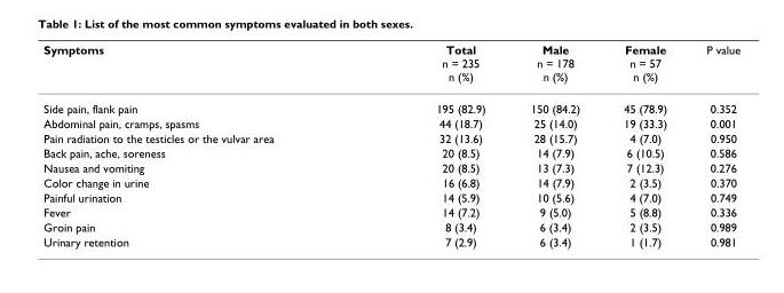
<table><thead><tr><td>Symptoms</td><td>Total n = 235 n (%)</td><td>Male n = 178 n (%)</td><td>Female n = 57 n (%)</td><td>P value</td></tr></thead><tbody><tr><td>Side pain, flank pain</td><td>195 (82.9)</td><td>150 (84.2)</td><td>45 (78.9)</td><td>0.352</td></tr><tr><td>Abdominal pain, cramps, spasms</td><td>44 (18.7)</td><td>25 (14.0)</td><td>19 (33.3)</td><td>0.001</td></tr><tr><td>Pain radiation to the testicles or the vulvar area</td><td>32 (13.6)</td><td>28 (15.7)</td><td>4 (7.0)</td><td>0.950</td></tr><tr><td>Back pain, ache, soreness</td><td>20 (8.5)</td><td>14 (7.9)</td><td>6 (10.5)</td><td>0.586</td></tr><tr><td>Nausea and vomiting</td><td>20 (8.5)</td><td>13 (7.3)</td><td>7 (12.3)</td><td>0.276</td></tr><tr><td>Color change in urine</td><td>16 (6.8)</td><td>14 (7.9)</td><td>2 (3.5)</td><td>0.370</td></tr><tr><td>Painful urination</td><td>14 (5.9)</td><td>10 (5.6)</td><td>4 (7.0)</td><td>0.749</td></tr><tr><td>Fever</td><td>14 (7.2)</td><td>9 (5.0)</td><td>5 (8.8)</td><td>0.336</td></tr><tr><td>Groin pain</td><td>8 (3.4)</td><td>6 (3.4)</td><td>2 (3.5)</td><td>0.989</td></tr><tr><td>Urinary retention</td><td>7 (2.9)</td><td>6 (3.4)</td><td>1 (1.7)</td><td>0.981</td></tr></tbody></table>